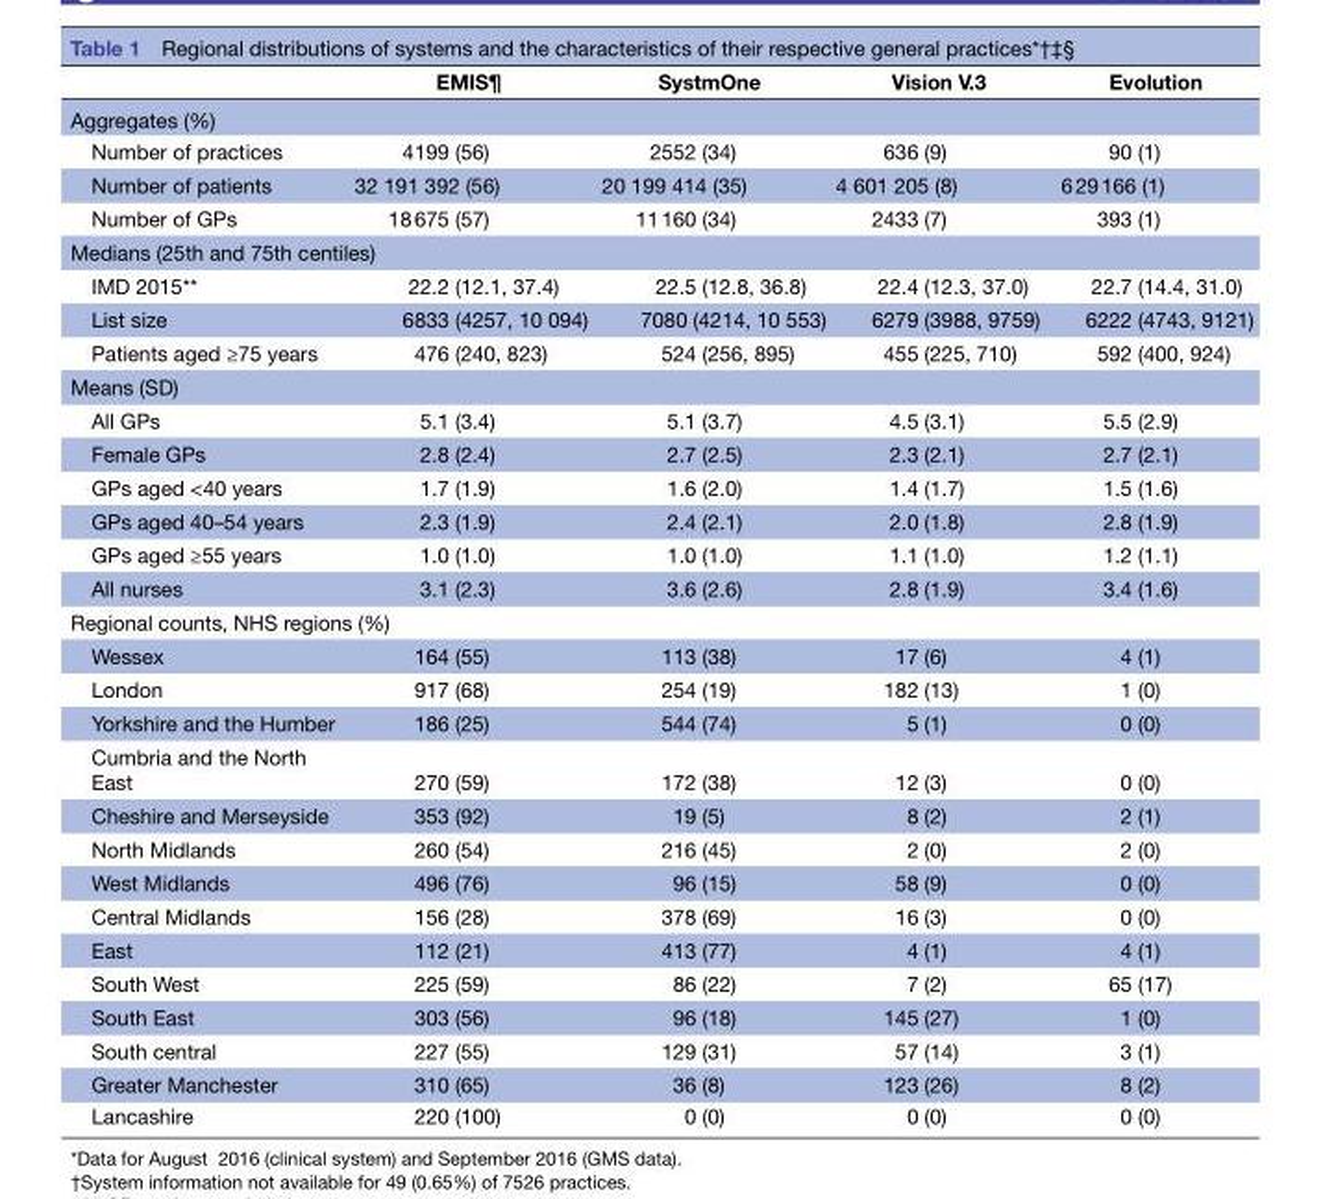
<table><thead><tr><td></td><td>EMIS¶</td><td>SystmOne</td><td>Vision V.3</td><td>Evolution</td></tr></thead><tbody><tr><td colspan="5">Aggregates (%)</td></tr><tr><td>Number of practices</td><td>4199 (56)</td><td>2552 (34)</td><td>636 (9)</td><td>90 (1)</td></tr><tr><td>Number of patients</td><td>32 191 392 (56)</td><td>20 199 414 (35)</td><td>4 601 205 (8)</td><td>6 29 166 (1)</td></tr><tr><td>Number of GPs</td><td>18 675 (57)</td><td>11 160 (34)</td><td>2433 (7)</td><td>393 (1)</td></tr><tr><td colspan="5">Medians (25th and 75th centiles)</td></tr><tr><td>IMD 2015**</td><td>22.2 (12.1, 37.4)</td><td>22.5 (12.8, 36.8)</td><td>22.4 (12.3, 37.0)</td><td>22.7 (14.4, 31.0)</td></tr><tr><td>List size</td><td>6833 (4257, 10 094)</td><td>7080 (4214, 10 553)</td><td>6279 (3988, 9759)</td><td>6222 (4743, 9121)</td></tr><tr><td>Patients aged ≥75 years</td><td>476 (240, 823)</td><td>524 (256, 895)</td><td>455 (225, 710)</td><td>592 (400, 924)</td></tr><tr><td colspan="5">Means (SD)</td></tr><tr><td>All GPs</td><td>5.1 (3.4)</td><td>5.1 (3.7)</td><td>4.5 (3.1)</td><td>5.5 (2.9)</td></tr><tr><td>Female GPs</td><td>2.8 (2.4)</td><td>2.7 (2.5)</td><td>2.3 (2.1)</td><td>2.7 (2.1)</td></tr><tr><td>GPs aged &lt;40 years</td><td>1.7 (1.9)</td><td>1.6 (2.0)</td><td>1.4 (1.7)</td><td>1.5 (1.6)</td></tr><tr><td>GPs aged 40–54 years</td><td>2.3 (1.9)</td><td>2.4 (2.1)</td><td>2.0 (1.8)</td><td>2.8 (1.9)</td></tr><tr><td>GPs aged ≥55 years</td><td>1.0 (1.0)</td><td>1.0 (1.0)</td><td>1.1 (1.0)</td><td>1.2 (1.1)</td></tr><tr><td>All nurses</td><td>3.1 (2.3)</td><td>3.6 (2.6)</td><td>2.8 (1.9)</td><td>3.4 (1.6)</td></tr><tr><td colspan="5">Regional counts, NHS regions (%)</td></tr><tr><td>Wessex</td><td>164 (55)</td><td>113 (38)</td><td>17 (6)</td><td>4 (1)</td></tr><tr><td>London</td><td>917 (68)</td><td>254 (19)</td><td>182 (13)</td><td>1 (0)</td></tr><tr><td>Yorkshire and the Humber</td><td>186 (25)</td><td>544 (74)</td><td>5 (1)</td><td>0 (0)</td></tr><tr><td>Cumbria and the North East</td><td>270 (59)</td><td>172 (38)</td><td>12 (3)</td><td>0 (0)</td></tr><tr><td>Cheshire and Merseyside</td><td>353 (92)</td><td>19 (5)</td><td>8 (2)</td><td>2 (1)</td></tr><tr><td>North Midlands</td><td>260 (54)</td><td>216 (45)</td><td>2 (0)</td><td>2 (0)</td></tr><tr><td>West Midlands</td><td>496 (76)</td><td>96 (15)</td><td>58 (9)</td><td>0 (0)</td></tr><tr><td>Central Midlands</td><td>156 (28)</td><td>378 (69)</td><td>16 (3)</td><td>0 (0)</td></tr><tr><td>East</td><td>112 (21)</td><td>413 (77)</td><td>4 (1)</td><td>4 (1)</td></tr><tr><td>South West</td><td>225 (59)</td><td>86 (22)</td><td>7 (2)</td><td>65 (17)</td></tr><tr><td>South East</td><td>303 (56)</td><td>96 (18)</td><td>145 (27)</td><td>1 (0)</td></tr><tr><td>South central</td><td>227 (55)</td><td>129 (31)</td><td>57 (14)</td><td>3 (1)</td></tr><tr><td>Greater Manchester</td><td>310 (65)</td><td>36 (8)</td><td>123 (26)</td><td>8 (2)</td></tr><tr><td>Lancashire</td><td>220 (100)</td><td>0 (0)</td><td>0 (0)</td><td>0 (0)</td></tr></tbody></table>